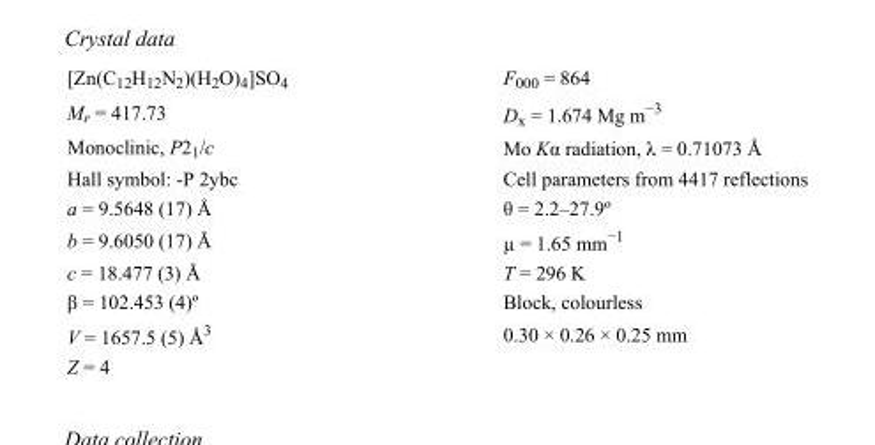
<table><tbody><tr><td>[Zn(C<sub>12</sub>H<sub>12</sub>N<sub>2</sub>)(H<sub>2</sub>O)<sub>4</sub>]SO<sub>4</sub></td><td>F000 = 864</td></tr><tr><td>M<sub>r</sub> = 417.73</td><td>D<sub>x</sub> = 1.674 Mg m<sup>−3</sup></td></tr><tr><td>Monoclinic, P2<sub>1</sub>/c</td><td>Mo Kα radiation, λ = 0.71073 Å</td></tr><tr><td>Hall symbol: -P 2ybc</td><td>Cell parameters from 4417 reflections</td></tr><tr><td>a = 9.5648 (17) Å</td><td>θ = 2.2–27.9º</td></tr><tr><td>b = 9.6050 (17) Å</td><td>µ = 1.65 mm<sup>−1</sup></td></tr><tr><td>c = 18.477 (3) Å</td><td>T = 296 K</td></tr><tr><td>β = 102.453 (4)º</td><td>Block, colourless</td></tr><tr><td>V = 1657.5 (5) Å<sup>3</sup></td><td>0.30 × 0.26 × 0.25 mm</td></tr><tr><td>Z = 4</td><td></td></tr></tbody></table>